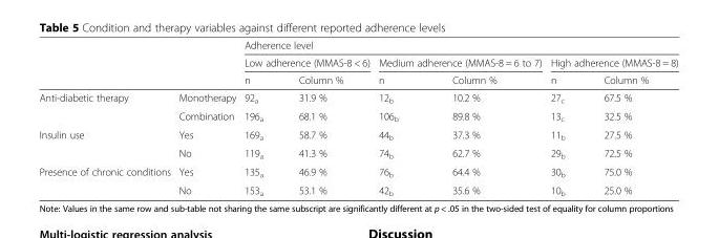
<table><thead><tr><td rowspan="3"></td><td rowspan="3"></td><td colspan="6">Adherence level</td></tr><tr><td colspan="2">Low adherence (MMAS-8 &lt; 6)</td><td colspan="2">Medium adherence (MMAS-8 = 6 to 7)</td><td colspan="2">High adherence (MMAS-8 = 8)</td></tr><tr><td>n</td><td>Column %</td><td>n</td><td>Column %</td><td>n</td><td>Column %</td></tr></thead><tbody><tr><td rowspan="2">Anti-diabetic therapy</td><td>Monotherapy</td><td>92<sub>a</sub></td><td>31.9 %</td><td>12<sub>b</sub></td><td>10.2 %</td><td>27<sub>c</sub></td><td>67.5 %</td></tr><tr><td>Combination</td><td>196<sub>a</sub></td><td>68.1 %</td><td>106<sub>b</sub></td><td>89.8 %</td><td>13<sub>c</sub></td><td>32.5 %</td></tr><tr><td rowspan="2">Insulin use</td><td>Yes</td><td>169<sub>a</sub></td><td>58.7 %</td><td>44<sub>b</sub></td><td>37.3 %</td><td>11<sub>b</sub></td><td>27.5 %</td></tr><tr><td>No</td><td>119<sub>a</sub></td><td>41.3 %</td><td>74<sub>b</sub></td><td>62.7 %</td><td>29<sub>b</sub></td><td>72.5 %</td></tr><tr><td rowspan="2">Presence of chronic conditions</td><td>Yes</td><td>135<sub>a</sub></td><td>46.9 %</td><td>76<sub>b</sub></td><td>64.4 %</td><td>30<sub>b</sub></td><td>75.0 %</td></tr><tr><td>No</td><td>153<sub>a</sub></td><td>53.1 %</td><td>42<sub>b</sub></td><td>35.6 %</td><td>10<sub>b</sub></td><td>25.0 %</td></tr></tbody></table>